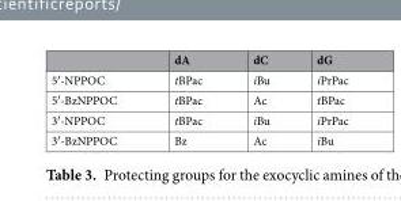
<table><thead><tr><td></td><td>dA</td><td>dC</td><td>dG</td></tr></thead><tbody><tr><td>5′-NPPOC</td><td>tBPac</td><td>iBu</td><td>iPrPac</td></tr><tr><td>5′-BzNPPOC</td><td>tBPac</td><td>Ac</td><td>tBPac</td></tr><tr><td>3′-NPPOC</td><td>tBPac</td><td>iBu</td><td>iPrPac</td></tr><tr><td>3′-BzNPPOC</td><td>Bz</td><td>Ac</td><td>iBu</td></tr></tbody></table>